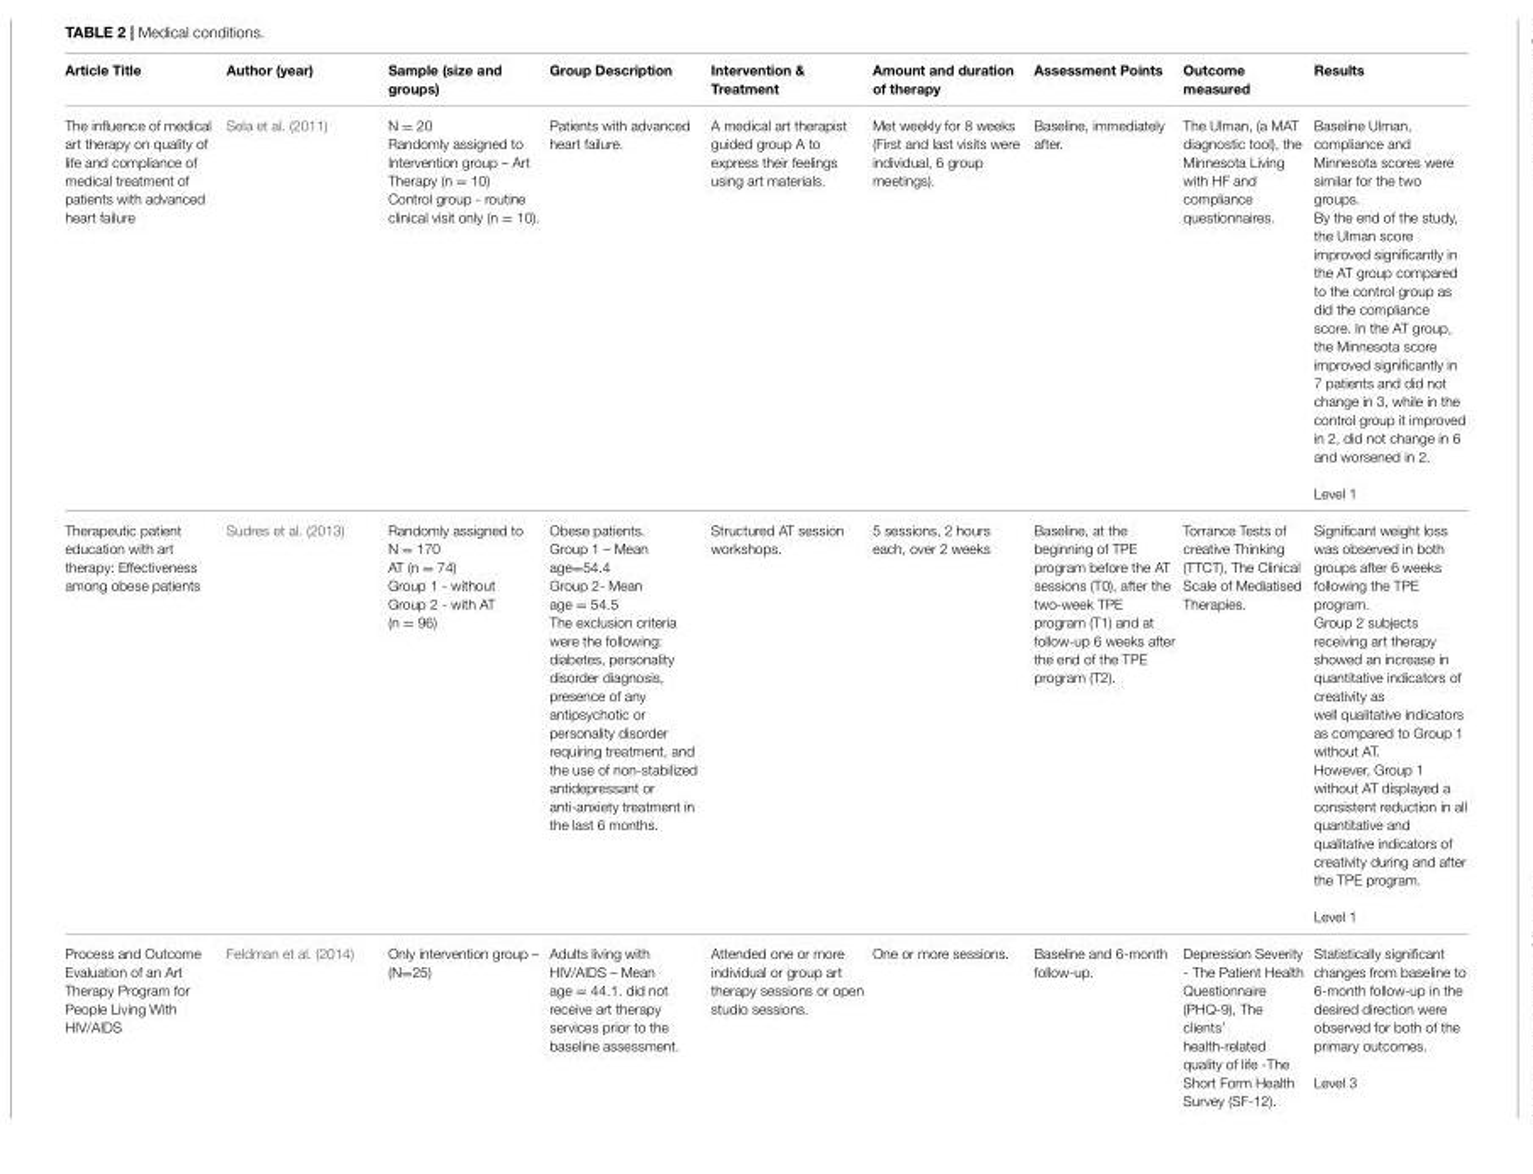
<table><thead><tr><td>Article Title</td><td>Author (year)</td><td>Sample (size and groups)</td><td>Group Description</td><td>Intervention &amp; Treatment</td><td>Amount and duration of therapy</td><td>Assessment Points</td><td>Outcome measured</td><td>Results</td></tr></thead><tbody><tr><td>The influence of medical art therapy on quality of life and compliance of medical treatment of patients with advanced heart failure</td><td>Sela et al. (2011)</td><td>N = 20 Randomly assigned to Intervention group – Art Therapy (n = 10) Control group - routine clinical visit only (n = 10).</td><td>Patients with advanced heart failure.</td><td>A medical art therapist guided group A to express their feelings using art materials.</td><td>Met weekly for 8 weeks (First and last visits were individual, 6 group meetings).</td><td>Baseline, immediately after.</td><td>The Ulman, (a MAT diagnostic tool), the Minnesota Living with HF and compliance questionnaires.</td><td>Baseline Ulman, compliance and Minnesota scores were similar for the two groups. By the end of the study, the Ulman score improved significantly in the AT group compared to the control group as did the compliance score. In the AT group, the Minnesota score improved significantly in 7 patients and did not change in 3, while in the control group it improved in 2, did not change in 6 and worsened in 2. Level 1</td></tr><tr><td>Therapeutic patient education with art therapy: Effectiveness among obese patients</td><td>Sudres et al. (2013)</td><td>Randomly assigned to N = 170 AT (n = 74) Group 1 - without Group 2 - with AT (n = 96)</td><td>Obese patients. Group 1 – Mean age=54.4 Group 2- Mean age = 54.5 The exclusion criteria were the following: diabetes, personality disorder diagnosis, presence of any antipsychotic or personality disorder requiring treatment, and the use of non-stabilized antidepressant or anti-anxiety treatment in the last 6 months.</td><td>Structured AT session workshops.</td><td>5 sessions, 2 hours each, over 2 weeks</td><td>Baseline, at the beginning of TPE program before the AT sessions (T0), after the two-week TPE program (T1) and at follow-up 6 weeks after the end of the TPE program (T2).</td><td>Torrance Tests of creative Thinking (TTCT), The Clinical Scale of Mediatised Therapies.</td><td>Significant weight loss was observed in both groups after 6 weeks following the TPE program. Group 2 subjects receiving art therapy showed an increase in quantitative indicators of creativity as well qualitative indicators as compared to Group 1 without AT. However, Group 1 without AT displayed a consistent reduction in all quantitative and qualitative indicators of creativity during and after the TPE program. Level 1</td></tr><tr><td>Process and Outcome Evaluation of an Art Therapy Program for People Living With HIV/AIDS</td><td>Feldman et al. (2014)</td><td>Only intervention group – (N=25)</td><td>Adults living with HIV/AIDS – Mean age = 44.1. did not receive art therapy services prior to the baseline assessment.</td><td>Attended one or more individual or group art therapy sessions or open studio sessions.</td><td>One or more sessions.</td><td>Baseline and 6-month follow-up.</td><td>Depression Severity - The Patient Health Questionnaire (PHQ-9), The clients’ health-related quality of life -The Short Form Health Survey (SF-12).</td><td>Statistically significant changes from baseline to 6-month follow-up in the desired direction were observed for both of the primary outcomes. Level 3</td></tr></tbody></table>